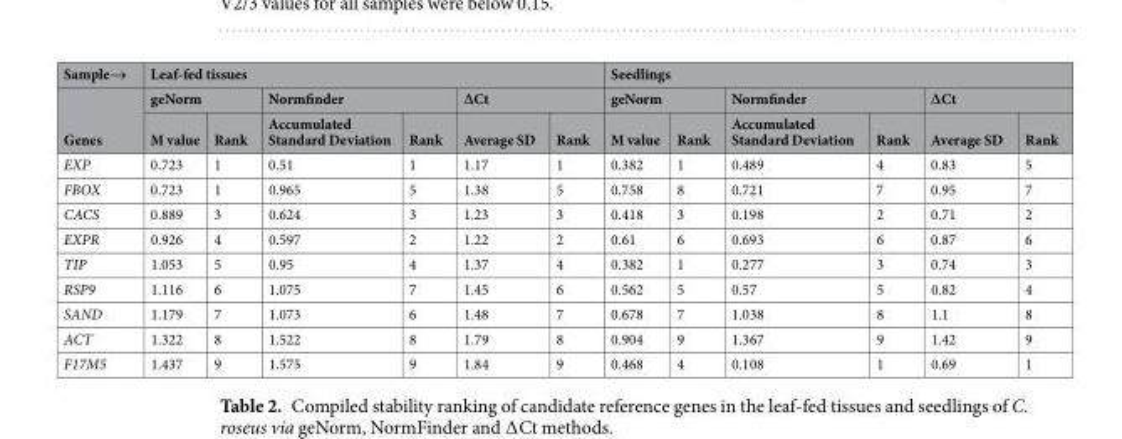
<table><thead><tr><td rowspan="3">Sample→ Genes</td><td colspan="6">Leaf-fed tissues</td><td colspan="6">Seedlings</td></tr><tr><td colspan="2">geNorm</td><td colspan="2">Normfinder</td><td colspan="2">∆Ct</td><td colspan="2">geNorm</td><td colspan="2">Normfinder</td><td colspan="2">∆Ct</td></tr><tr><td>M value</td><td>Rank</td><td>Accumulated Standard Deviation</td><td>Rank</td><td>Average SD</td><td>Rank</td><td>M value</td><td>Rank</td><td>Accumulated Standard Deviation</td><td>Rank</td><td>Average SD</td><td>Rank</td></tr></thead><tbody><tr><td>EXP</td><td>0.723</td><td>1</td><td>0.51</td><td>1</td><td>1.17</td><td>1</td><td>0.382</td><td>1</td><td>0.489</td><td>4</td><td>0.83</td><td>5</td></tr><tr><td>FBOX</td><td>0.723</td><td>1</td><td>0.965</td><td>5</td><td>1.38</td><td>5</td><td>0.758</td><td>8</td><td>0.721</td><td>7</td><td>0.95</td><td>7</td></tr><tr><td>CACS</td><td>0.889</td><td>3</td><td>0.624</td><td>3</td><td>1.23</td><td>3</td><td>0.418</td><td>3</td><td>0.198</td><td>2</td><td>0.71</td><td>2</td></tr><tr><td>EXPR</td><td>0.926</td><td>4</td><td>0.597</td><td>2</td><td>1.22</td><td>2</td><td>0.61</td><td>6</td><td>0.693</td><td>6</td><td>0.87</td><td>6</td></tr><tr><td>TIP</td><td>1.053</td><td>5</td><td>0.95</td><td>4</td><td>1.37</td><td>4</td><td>0.382</td><td>1</td><td>0.277</td><td>3</td><td>0.74</td><td>3</td></tr><tr><td>RSP9</td><td>1.116</td><td>6</td><td>1.075</td><td>7</td><td>1.45</td><td>6</td><td>0.562</td><td>5</td><td>0.57</td><td>5</td><td>0.82</td><td>4</td></tr><tr><td>SAND</td><td>1.179</td><td>7</td><td>1.073</td><td>6</td><td>1.48</td><td>7</td><td>0.678</td><td>7</td><td>1.038</td><td>8</td><td>1.1</td><td>8</td></tr><tr><td>ACT</td><td>1.322</td><td>8</td><td>1.522</td><td>8</td><td>1.79</td><td>8</td><td>0.904</td><td>9</td><td>1.367</td><td>9</td><td>1.42</td><td>9</td></tr><tr><td>F17M5</td><td>1.437</td><td>9</td><td>1.575</td><td>9</td><td>1.84</td><td>9</td><td>0.468</td><td>4</td><td>0.108</td><td>1</td><td>0.69</td><td>1</td></tr></tbody></table>